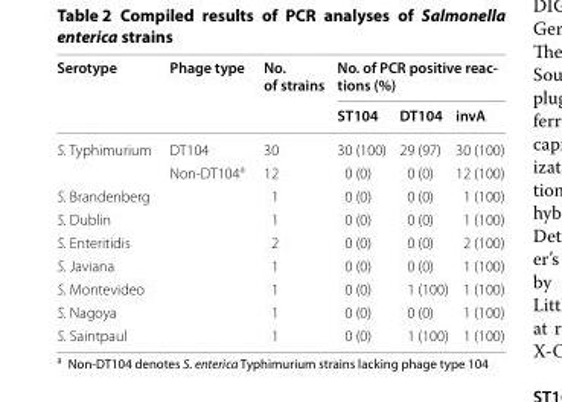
<table><thead><tr><td rowspan="2">Serotype</td><td rowspan="2">Phage type</td><td rowspan="2">No. of strains</td><td colspan="3">No. of PCR positive reac‑ tions (%)</td></tr><tr><td>ST104</td><td>DT104</td><td>invA</td></tr></thead><tbody><tr><td rowspan="2">S. Typhimurium</td><td>DT104</td><td>30</td><td>30 (100)</td><td>29 (97)</td><td>30 (100)</td></tr><tr><td>Non-DT104<sup>a</sup></td><td>12</td><td>0 (0)</td><td>0 (0)</td><td>12 (100)</td></tr><tr><td>S. Brandenberg</td><td></td><td>1</td><td>0 (0)</td><td>0 (0)</td><td>1 (100)</td></tr><tr><td>S. Dublin</td><td></td><td>1</td><td>0 (0)</td><td>0 (0)</td><td>1 (100)</td></tr><tr><td>S. Enteritidis</td><td></td><td>2</td><td>0 (0)</td><td>0 (0)</td><td>2 (100)</td></tr><tr><td>S. Javiana</td><td></td><td>1</td><td>0 (0)</td><td>0 (0)</td><td>1 (100)</td></tr><tr><td>S. Montevideo</td><td></td><td>1</td><td>0 (0)</td><td>1 (100)</td><td>1 (100)</td></tr><tr><td>S. Nagoya</td><td></td><td>1</td><td>0 (0)</td><td>0 (0)</td><td>1 (100)</td></tr><tr><td>S. Saintpaul</td><td></td><td>1</td><td>0 (0)</td><td>1 (100)</td><td>1 (100)</td></tr></tbody></table>